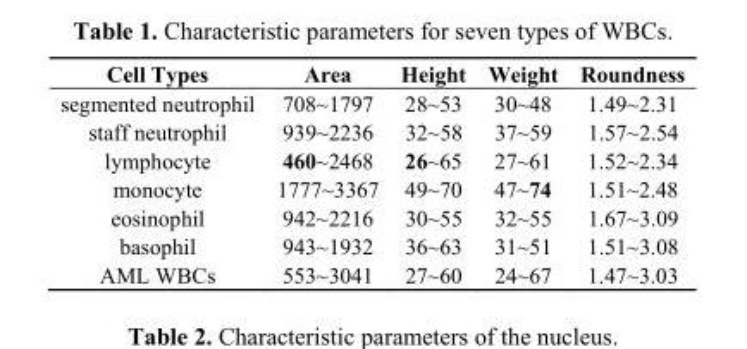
<table><thead><tr><td>Cell Types</td><td>Area</td><td>Height</td><td>Weight</td><td>Roundness</td></tr></thead><tbody><tr><td>segmented neutrophil</td><td>708~1797</td><td>28~53</td><td>30~48</td><td>1.49~2.31</td></tr><tr><td>staff neutrophil</td><td>939~2236</td><td>32~58</td><td>37~59</td><td>1.57~2.54</td></tr><tr><td>lymphocyte</td><td>460~2468</td><td>26~65</td><td>27~61</td><td>1.52~2.34</td></tr><tr><td>monocyte</td><td>1777~3367</td><td>49~70</td><td>47~74</td><td>1.51~2.48</td></tr><tr><td>eosinophil</td><td>942~2216</td><td>30~55</td><td>32~55</td><td>1.67~3.09</td></tr><tr><td>basophil</td><td>943~1932</td><td>36~63</td><td>31~51</td><td>1.51~3.08</td></tr><tr><td>AML WBCs</td><td>553~3041</td><td>27~60</td><td>24~67</td><td>1.47~3.03</td></tr></tbody></table>